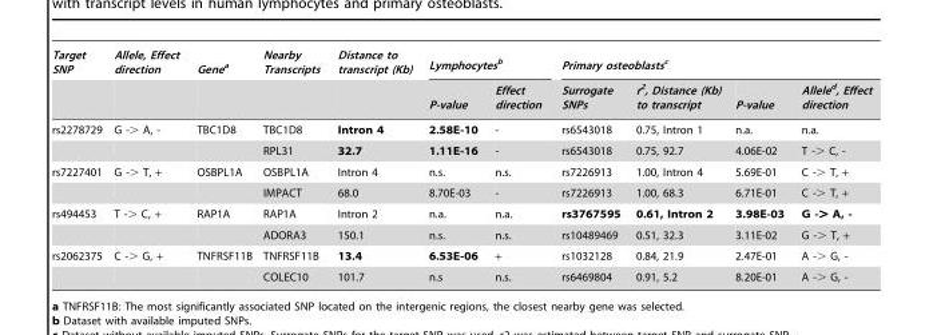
<table><thead><tr><td rowspan="2">Target SNP</td><td rowspan="2">Allele, Effect direction</td><td rowspan="2">Gene<sup>a</sup></td><td rowspan="2">Nearby Transcripts</td><td rowspan="2">Distance to transcript (Kb)</td><td colspan="2">Lymphocytes<sup>b</sup></td><td colspan="4">Primary osteoblasts<sup>c</sup></td></tr><tr><td>P-value</td><td>Effect direction</td><td>Surrogate SNPs</td><td>r<sup>2</sup>, Distance (Kb) to transcript</td><td>P-value</td><td>Allele<sup>d</sup>, Effect direction</td></tr></thead><tbody><tr><td rowspan="2">rs2278729</td><td>G -&gt; A, -</td><td>TBC1D8</td><td>TBC1D8</td><td>Intron 4</td><td>2.58E-10</td><td>-</td><td>rs6543018</td><td>0.75, Intron 1</td><td>n.a.</td><td>n.a.</td></tr><tr><td></td><td></td><td>RPL31</td><td>32.7</td><td>1.11E-16</td><td>-</td><td>rs6543018</td><td>0.75, 92.7</td><td>4.06E-02</td><td>T -&gt; C, -</td></tr><tr><td rowspan="2">rs7227401</td><td>G -&gt; T, +</td><td>OSBPL1A</td><td>OSBPL1A</td><td>Intron 4</td><td>n.s.</td><td>n.s.</td><td>rs7226913</td><td>1.00, Intron 4</td><td>5.69E-01</td><td>C -&gt; T, +</td></tr><tr><td></td><td></td><td>IMPACT</td><td>68.0</td><td>8.70E-03</td><td>-</td><td>rs7226913</td><td>1.00, 68.3</td><td>6.71E-01</td><td>C -&gt; T, +</td></tr><tr><td rowspan="2">rs494453</td><td>T -&gt; C, +</td><td>RAP1A</td><td>RAP1A</td><td>Intron 2</td><td>n.a.</td><td>n.a.</td><td>rs3767595</td><td>0.61, Intron 2</td><td>3.98E-03</td><td>G -&gt; A, -</td></tr><tr><td></td><td></td><td>ADORA3</td><td>150.1</td><td>n.s.</td><td>n.s.</td><td>rs10489469</td><td>0.51, 32.3</td><td>3.11E-02</td><td>G -&gt; T, +</td></tr><tr><td rowspan="2">rs2062375</td><td>C -&gt; G, +</td><td>TNFRSF11B</td><td>TNFRSF11B</td><td>13.4</td><td>6.53E-06</td><td>+</td><td>rs1032128</td><td>0.84, 21.9</td><td>2.47E-01</td><td>A -&gt; G, -</td></tr><tr><td></td><td></td><td>COLEC10</td><td>101.7</td><td>n.s</td><td>n.s.</td><td>rs6469804</td><td>0.91, 5.2</td><td>8.20E-01</td><td>A -&gt; G, -</td></tr></tbody></table>